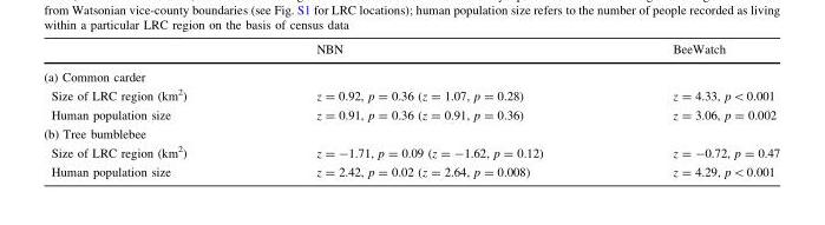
<table><thead><tr><td></td><td>NBN</td><td>BeeWatch</td></tr></thead><tbody><tr><td colspan="3">(a) Common carder</td></tr><tr><td>Size of LRC region (km<sup>2</sup>)</td><td>z = 0.92, p = 0.36 (z = 1.07, p = 0.28)</td><td>z = 4.33, p&lt;0.001</td></tr><tr><td>Human population size</td><td>z = 0.91, p = 0.36 (z = 0.91, p = 0.36)</td><td>z = 3.06, p = 0.002</td></tr><tr><td colspan="3">(b) Tree bumblebee</td></tr><tr><td>Size of LRC region (km<sup>2</sup>)</td><td>z = -1.71, p = 0.09 (z = -1.62, p = 0.12)</td><td>z = -0.72, p = 0.47</td></tr><tr><td>Human population size</td><td>z = 2.42, p = 0.02 (z = 2.64, p = 0.008)</td><td>z = 4.29, p&lt;0.001</td></tr></tbody></table>